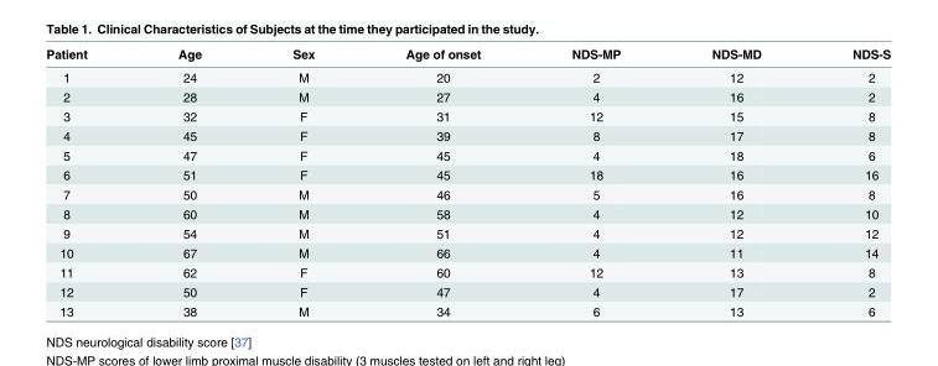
<table><thead><tr><td>Patient</td><td>Age</td><td>Sex</td><td>Age of onset</td><td>NDS-MP</td><td>NDS-MD</td><td>NDS-S</td></tr></thead><tbody><tr><td>1</td><td>24</td><td>M</td><td>20</td><td>2</td><td>12</td><td>2</td></tr><tr><td>2</td><td>28</td><td>M</td><td>27</td><td>4</td><td>16</td><td>2</td></tr><tr><td>3</td><td>32</td><td>F</td><td>31</td><td>12</td><td>15</td><td>8</td></tr><tr><td>4</td><td>45</td><td>F</td><td>39</td><td>8</td><td>17</td><td>8</td></tr><tr><td>5</td><td>47</td><td>F</td><td>45</td><td>4</td><td>18</td><td>6</td></tr><tr><td>6</td><td>51</td><td>F</td><td>45</td><td>18</td><td>16</td><td>16</td></tr><tr><td>7</td><td>50</td><td>M</td><td>46</td><td>5</td><td>16</td><td>8</td></tr><tr><td>8</td><td>60</td><td>M</td><td>58</td><td>4</td><td>12</td><td>10</td></tr><tr><td>9</td><td>54</td><td>M</td><td>51</td><td>4</td><td>12</td><td>12</td></tr><tr><td>10</td><td>67</td><td>M</td><td>66</td><td>4</td><td>11</td><td>14</td></tr><tr><td>11</td><td>62</td><td>F</td><td>60</td><td>12</td><td>13</td><td>8</td></tr><tr><td>12</td><td>50</td><td>F</td><td>47</td><td>4</td><td>17</td><td>2</td></tr><tr><td>13</td><td>38</td><td>M</td><td>34</td><td>6</td><td>13</td><td>6</td></tr></tbody></table>